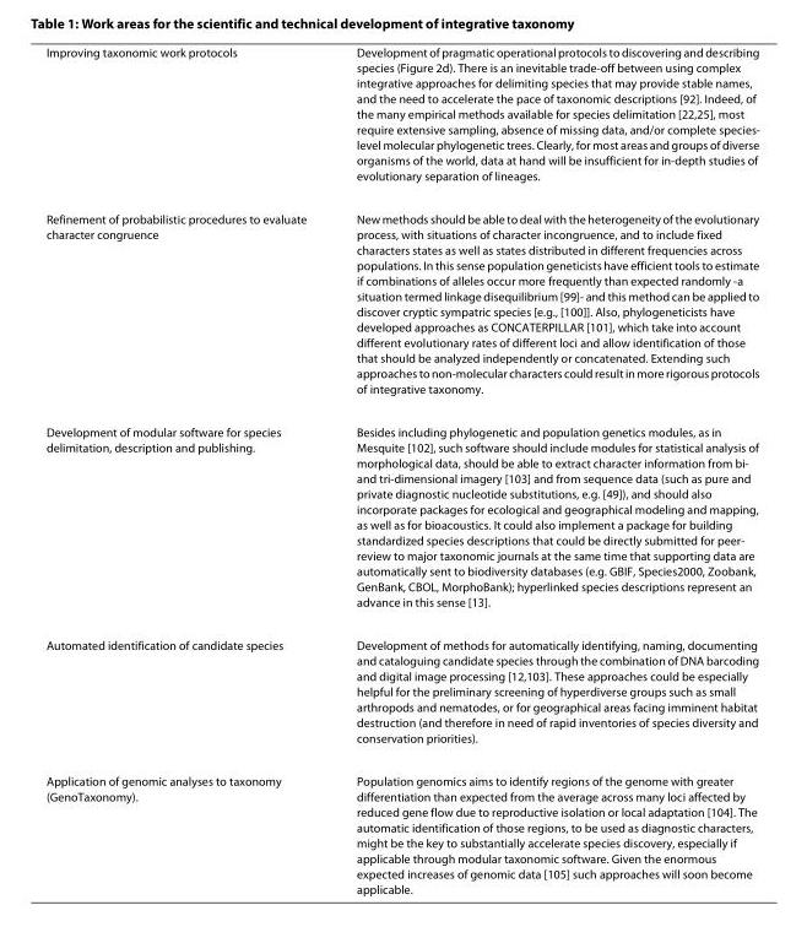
<table><tbody><tr><td>Improving taxonomic work protocols</td><td>Development of pragmatic operational protocols to discovering and describing species (Figure 2d). There is an inevitable trade-off between using complex integrative approaches for delimiting species that may provide stable names, and the need to accelerate the pace of taxonomic descriptions [92]. Indeed, of the many empirical methods available for species delimitation [22,25], most require extensive sampling, absence of missing data, and/or complete species- level molecular phylogenetic trees. Clearly, for most areas and groups of diverse organisms of the world, data at hand will be insufficient for in-depth studies of evolutionary separation of lineages.</td></tr><tr><td>Refinement of probabilistic procedures to evaluate character congruence</td><td>New methods should be able to deal with the heterogeneity of the evolutionary process, with situations of character incongruence, and to include fixed characters states as well as states distributed in different frequencies across populations. In this sense population geneticists have efficient tools to estimate if combinations of alleles occur more frequently than expected randomly -a situation termed linkage disequilibrium [99]- and this method can be applied to discover cryptic sympatric species [e.g., [100]]. Also, phylogeneticists have developed approaches as CONCATERPILLAR [101], which take into account different evolutionary rates of different loci and allow identification of those that should be analyzed independently or concatenated. Extending such approaches to non-molecular characters could result in more rigorous protocols of integrative taxonomy.</td></tr><tr><td>Development of modular software for species delimitation, description and publishing.</td><td>Besides including phylogenetic and population genetics modules, as in Mesquite [102], such software should include modules for statistical analysis of morphological data, should be able to extract character information from bi- and tri-dimensional imagery [103] and from sequence data (such as pure and private diagnostic nucleotide substitutions, e.g. [49]), and should also incorporate packages for ecological and geographical modeling and mapping, as well as for bioacoustics. It could also implement a package for building standardized species descriptions that could be directly submitted for peer- review to major taxonomic journals at the same time that supporting data are automatically sent to biodiversity databases (e.g. GBIF, Species2000, Zoobank, GenBank, CBOL, MorphoBank); hyperlinked species descriptions represent an advance in this sense [13].</td></tr><tr><td>Automated identification of candidate species</td><td>Development of methods for automatically identifying, naming, documenting and cataloguing candidate species through the combination of DNA barcoding and digital image processing [12,103]. These approaches could be especially helpful for the preliminary screening of hyperdiverse groups such as small arthropods and nematodes, or for geographical areas facing imminent habitat destruction (and therefore in need of rapid inventories of species diversity and conservation priorities).</td></tr><tr><td>Application of genomic analyses to taxonomy (GenoTaxonomy).</td><td>Population genomics aims to identify regions of the genome with greater differentiation than expected from the average across many loci affected by reduced gene flow due to reproductive isolation or local adaptation [104]. The automatic identification of those regions, to be used as diagnostic characters, might be the key to substantially accelerate species discovery, especially if applicable through modular taxonomic software. Given the enormous expected increases of genomic data [105] such approaches will soon become applicable.</td></tr></tbody></table>